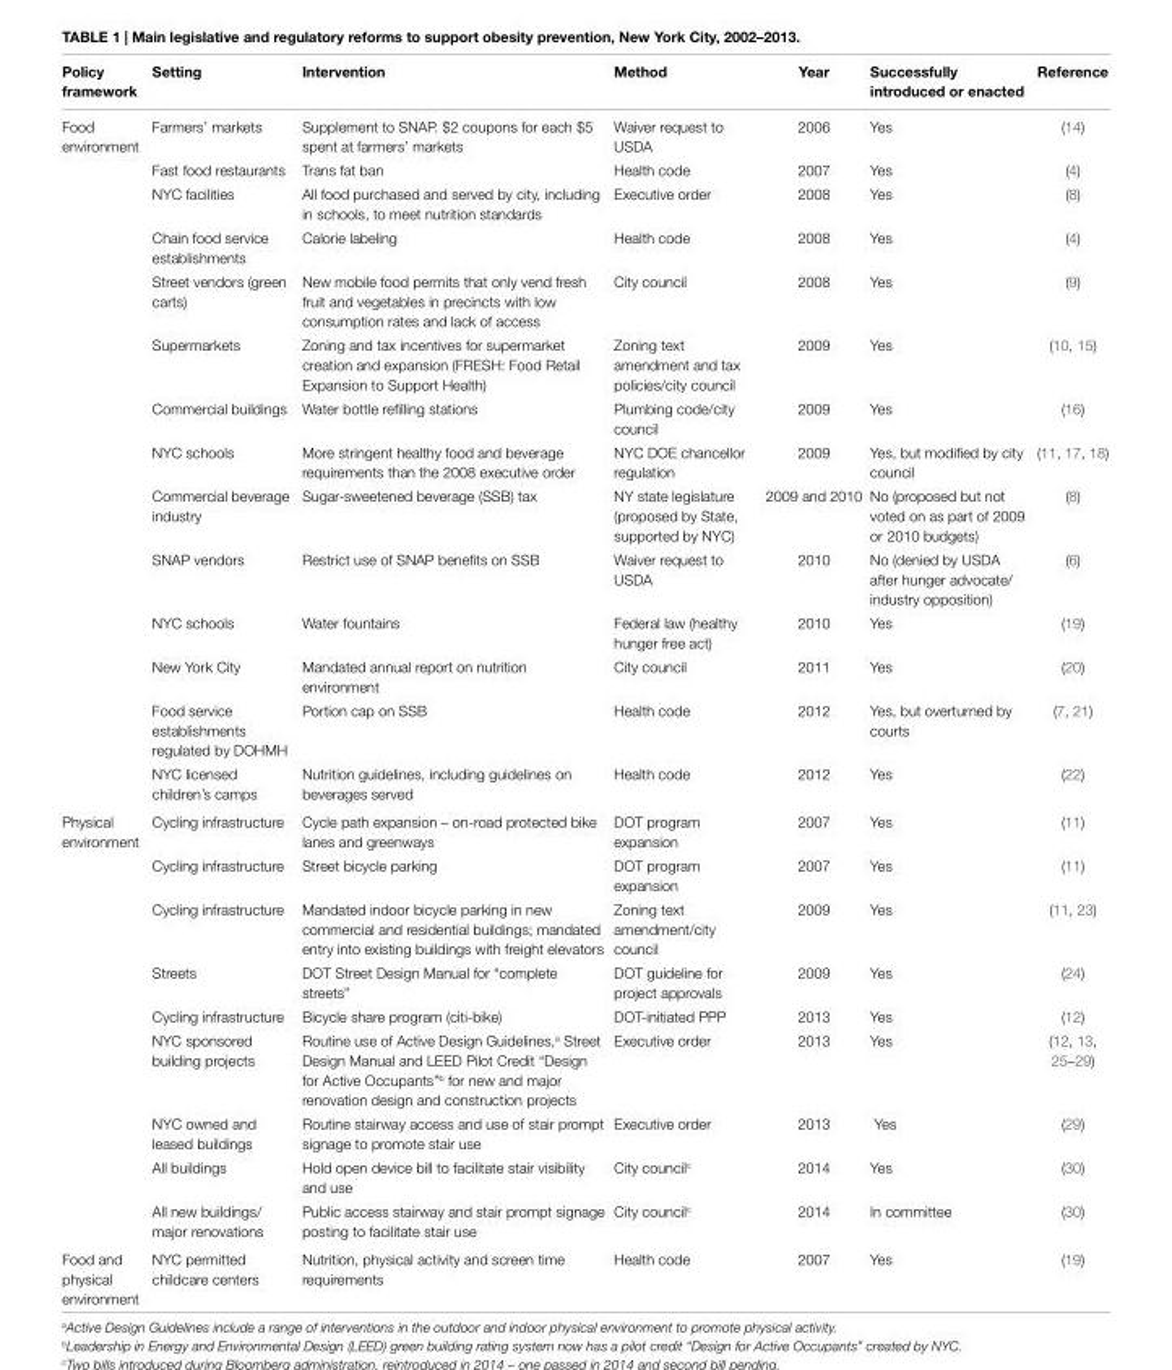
<table><thead><tr><td>Policy framework</td><td>setting</td><td>intervention</td><td>Method</td><td>Year</td><td>successfully introduced or enacted</td><td>reference</td></tr></thead><tbody><tr><td rowspan="14">Food environment</td><td>Farmers’ markets</td><td>Supplement to SNAP. $2 coupons for each $5 spent at farmers’ markets</td><td>Waiver request to USDA</td><td>2006</td><td>Yes</td><td>(14)</td></tr><tr><td>Fast food restaurants</td><td>Trans fat ban</td><td>Health code</td><td>2007</td><td>Yes</td><td>(4)</td></tr><tr><td>NYC facilities</td><td>All food purchased and served by city, including in schools, to meet nutrition standards</td><td>Executive order</td><td>2008</td><td>Yes</td><td>(8)</td></tr><tr><td>Chain food service establishments</td><td>Calorie labeling</td><td>Health code</td><td>2008</td><td>Yes</td><td>(4)</td></tr><tr><td>Street vendors (green carts)</td><td>New mobile food permits that only vend fresh fruit and vegetables in precincts with low consumption rates and lack of access</td><td>City council</td><td>2008</td><td>Yes</td><td>(9)</td></tr><tr><td>Supermarkets</td><td>Zoning and tax incentives for supermarket creation and expansion (FRESH: Food Retail Expansion to Support Health)</td><td>Zoning text amendment and tax policies/city council</td><td>2009</td><td>Yes</td><td>(10, 15)</td></tr><tr><td>Commercial buildings</td><td>Water bottle refilling stations</td><td>Plumbing code/city council</td><td>2009</td><td>Yes</td><td>(16)</td></tr><tr><td>NYC schools</td><td>More stringent healthy food and beverage requirements than the 2008 executive order</td><td>NYC DOE chancellor regulation</td><td>2009</td><td>Yes, but modified by city council</td><td>(11, 17, 18)</td></tr><tr><td>Commercial beverage industry</td><td>Sugar-sweetened beverage (SSB) tax</td><td>NY state legislature (proposed by State, supported by NYC)</td><td>2009 and 2010</td><td>No (proposed but not voted on as part of 2009 or 2010 budgets)</td><td>(8)</td></tr><tr><td>SNAP vendors</td><td>Restrict use of SNAP benefits on SSB</td><td>Waiver request to USDA</td><td>2010</td><td>No (denied by USDA after hunger advocate/ industry opposition)</td><td>(6)</td></tr><tr><td>NYC schools</td><td>Water fountains</td><td>Federal law (healthy hunger free act)</td><td>2010</td><td>Yes</td><td>(19)</td></tr><tr><td>New York City</td><td>Mandated annual report on nutrition environment</td><td>City council</td><td>2011</td><td>Yes</td><td>(20)</td></tr><tr><td>Food service establishments regulated by DOHMH</td><td>Portion cap on SSB</td><td>Health code</td><td>2012</td><td>Yes, but overturned by courts</td><td>(7, 21)</td></tr><tr><td>NYC licensed children’s camps</td><td>Nutrition guidelines, including guidelines on beverages served</td><td>Health code</td><td>2012</td><td>Yes</td><td>(22)</td></tr><tr><td rowspan="9">Physical environment</td><td>Cycling infrastructure</td><td>Cycle path expansion – on-road protected bike lanes and greenways</td><td>DOT program expansion</td><td>2007</td><td>Yes</td><td>(11)</td></tr><tr><td>Cycling infrastructure</td><td>Street bicycle parking</td><td>DOT program expansion</td><td>2007</td><td>Yes</td><td>(11)</td></tr><tr><td>Cycling infrastructure</td><td>Mandated indoor bicycle parking in new commercial and residential buildings; mandated entry into existing buildings with freight elevators</td><td>Zoning text amendment/city council</td><td>2009</td><td>Yes</td><td>(11, 23)</td></tr><tr><td>Streets</td><td>DOT Street Design Manual for “complete streets”</td><td>DOT guideline for project approvals</td><td>2009</td><td>Yes</td><td>(24)</td></tr><tr><td>Cycling infrastructure</td><td>Bicycle share program (citi-bike)</td><td>DOT-initiated PPP</td><td>2013</td><td>Yes</td><td>(12)</td></tr><tr><td>NYC sponsored building projects</td><td>Routine use of Active Design Guidelines,<sup>a</sup> Street Design Manual and LEED Pilot Credit “Design for Active Occupants”<sup>b</sup> for new and major renovation design and construction projects</td><td>Executive order</td><td>2013</td><td>Yes</td><td>(12, 13, 25–29)</td></tr><tr><td>NYC owned and leased buildings</td><td>Routine stairway access and use of stair prompt signage to promote stair use</td><td>Executive order</td><td>2013</td><td>Yes</td><td>(29)</td></tr><tr><td>All buildings</td><td>Hold open device bill to facilitate stair visibility and use</td><td>City council<sup>c</sup></td><td>2014</td><td>Yes</td><td>(30)</td></tr><tr><td>All new buildings/ major renovations</td><td>Public access stairway and stair prompt signage posting to facilitate stair use</td><td>City council<sup>c</sup></td><td>2014</td><td>In committee</td><td>(30)</td></tr><tr><td>Food and physical environment</td><td>NYC permitted childcare centers</td><td>Nutrition, physical activity and screen time requirements</td><td>Health code</td><td>2007</td><td>Yes</td><td>(19)</td></tr></tbody></table>